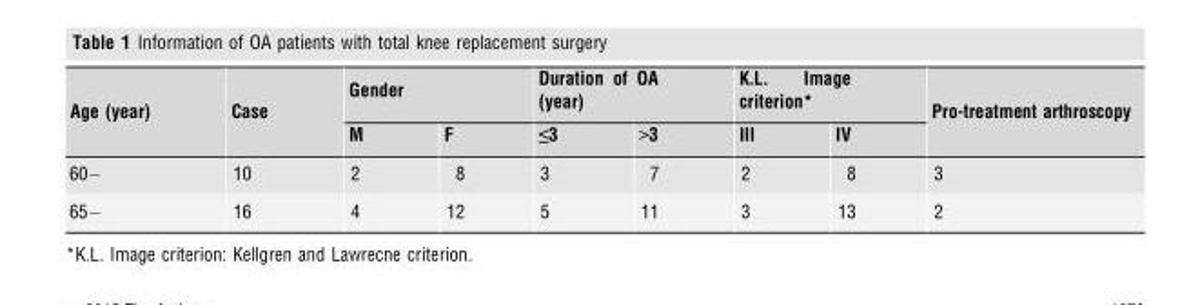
<table><thead><tr><td rowspan="2">Age (year)</td><td rowspan="2">Case</td><td colspan="2">Gender</td><td colspan="2">Duration of OA (year)</td><td colspan="2">K.L. Image criterion*</td><td rowspan="2">Pro-treatment arthroscopy</td></tr><tr><td>M</td><td>F</td><td>≤3</td><td>&gt;3</td><td>III</td><td>IV</td></tr></thead><tbody><tr><td>60−</td><td>10</td><td>2</td><td>8</td><td>3</td><td>7</td><td>2</td><td>8</td><td>3</td></tr><tr><td>65−</td><td>16</td><td>4</td><td>12</td><td>5</td><td>11</td><td>3</td><td>13</td><td>2</td></tr></tbody></table>